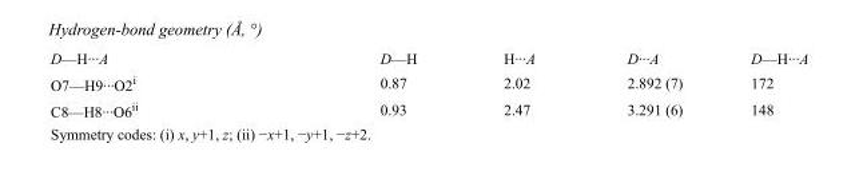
<table><tbody><tr><td>D—H···A</td><td>D—H</td><td>H···A</td><td>D···A</td><td>D—H···A</td></tr><tr><td>O7—H9···O2<sup>i</sup></td><td>0.87</td><td>2.02</td><td>2.892 (7)</td><td>172</td></tr><tr><td>C8—H8···O6<sup>ii</sup></td><td>0.93</td><td>2.47</td><td>3.291 (6)</td><td>148</td></tr></tbody></table>